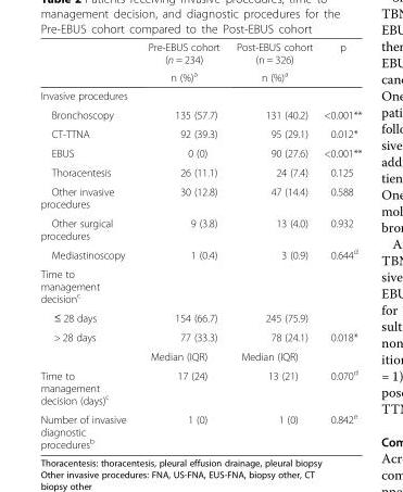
<table><thead><tr><td rowspan="2"></td><td rowspan="2">Pre-EBUS cohort (n = 234) n (%)<sup>a</sup></td><td rowspan="2">Post-EBUS cohort (n = 326) n (%)<sup>a</sup></td><td rowspan="2">p</td></tr><tr></tr></thead><tbody><tr><td colspan="4">Invasive procedures</td></tr><tr><td>Bronchoscopy</td><td>135 (57.7)</td><td>131 (40.2)</td><td>&lt;0.001**</td></tr><tr><td>CT-TTNA</td><td>92 (39.3)</td><td>95 (29.1)</td><td>0.012*</td></tr><tr><td>EBUS</td><td>0 (0)</td><td>90 (27.6)</td><td>&lt;0.001**</td></tr><tr><td>Thoracentesis</td><td>26 (11.1)</td><td>24 (7.4)</td><td>0.125</td></tr><tr><td>Other invasive procedures</td><td>30 (12.8)</td><td>47 (14.4)</td><td>0.588</td></tr><tr><td>Other surgical procedures</td><td>9 (3.8)</td><td>13 (4.0)</td><td>0.932</td></tr><tr><td>Mediastinoscopy</td><td>1 (0.4)</td><td>3 (0.9)</td><td>0.644<sup>d</sup></td></tr><tr><td colspan="4">Time to management decision<sup>c</sup></td></tr><tr><td>≤ 28 days</td><td>154 (66.7)</td><td>245 (75.9)</td><td></td></tr><tr><td rowspan="2">&gt; 28 days</td><td>77 (33.3)</td><td>78 (24.1)</td><td>0.018*</td></tr><tr><td>Median (IQR)</td><td>Median (IQR)</td><td></td></tr><tr><td>Time to management decision (days)<sup>c</sup></td><td>17 (24)</td><td>13 (21)</td><td>0.070<sup>d</sup></td></tr><tr><td>Number of invasive diagnostic procedures<sup>b</sup></td><td>1 (0)</td><td>1 (0)</td><td>0.842<sup>e</sup></td></tr></tbody></table>